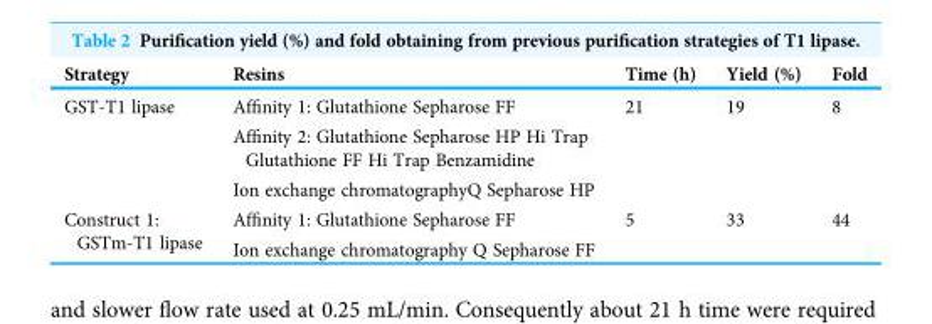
<table><thead><tr><td>Strategy</td><td>Resins</td><td>Time (h)</td><td>Yield (%)</td><td>Fold</td></tr></thead><tbody><tr><td rowspan="3">GST-T1 lipase</td><td>Affinity 1: Glutathione Sepharose FF</td><td rowspan="3">21</td><td rowspan="3">19</td><td rowspan="3">8</td></tr><tr><td>Affinity 2: Glutathione Sepharose HP Hi Trap Glutathione FF Hi Trap Benzamidine</td></tr><tr><td>Ion exchange chromatographyQ Sepharose HP</td></tr><tr><td rowspan="2">Construct 1: GSTm-T1 lipase</td><td>Affinity 1: Glutathione Sepharose FF</td><td rowspan="2">5</td><td rowspan="2">33</td><td rowspan="2">44</td></tr><tr><td>Ion exchange chromatography Q Sepharose FF</td></tr></tbody></table>